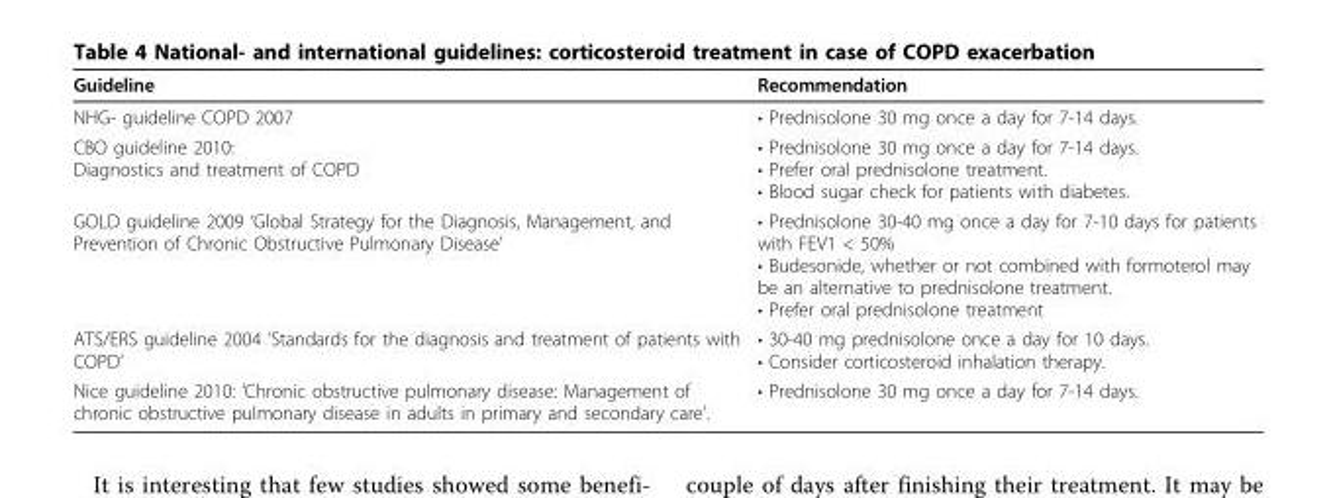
<table><thead><tr><td>Guideline</td><td>Recommendation</td></tr></thead><tbody><tr><td>NHG- guideline COPD 2007</td><td>• Prednisolone 30 mg once a day for 7-14 days.</td></tr><tr><td>CBO guideline 2010: Diagnostics and treatment of COPD</td><td>• Prednisolone 30 mg once a day for 7-14 days. • Prefer oral prednisolone treatment. • Blood sugar check for patients with diabetes.</td></tr><tr><td>GOLD guideline 2009 ‘Global Strategy for the Diagnosis, Management, and Prevention of Chronic Obstructive Pulmonary Disease’</td><td>• Prednisolone 30-40 mg once a day for 7-10 days for patients with FEV1 &lt; 50% • Budesonide, whether or not combined with formoterol may be an alternative to prednisolone treatment. • Prefer oral prednisolone treatment</td></tr><tr><td>ATS/ERS guideline 2004 ‘Standards for the diagnosis and treatment of patients with COPD’</td><td>• 30-40 mg prednisolone once a day for 10 days. • Consider corticosteroid inhalation therapy.</td></tr><tr><td>Nice guideline 2010: ‘Chronic obstructive pulmonary disease: Management of chronic obstructive pulmonary disease in adults in primary and secondary care’.</td><td>• Prednisolone 30 mg once a day for 7-14 days.</td></tr></tbody></table>